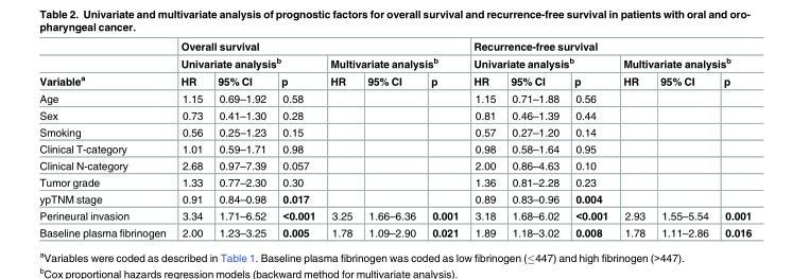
<table><thead><tr><td rowspan="3">Variable<sup>a</sup></td><td colspan="6">Overall survival</td><td colspan="6">Recurrence-free survival</td></tr><tr><td colspan="3">Univariate analysis<sup>b</sup></td><td colspan="3">Multivariate analysis<sup>b</sup></td><td colspan="3">Univariate analysis<sup>b</sup></td><td colspan="3">Multivariate analysis<sup>b</sup></td></tr><tr><td>HR</td><td>95% CI</td><td>p</td><td>HR</td><td>95% CI</td><td>p</td><td>HR</td><td>95% CI</td><td>p</td><td>HR</td><td>95% CI</td><td>p</td></tr></thead><tbody><tr><td>Age</td><td>1.15</td><td>0.69–1.92</td><td>0.58</td><td></td><td></td><td></td><td>1.15</td><td>0.71–1.88</td><td>0.56</td><td></td><td></td><td></td></tr><tr><td>Sex</td><td>0.73</td><td>0.41–1.30</td><td>0.28</td><td></td><td></td><td></td><td>0.81</td><td>0.46–1.39</td><td>0.44</td><td></td><td></td><td></td></tr><tr><td>Smoking</td><td>0.56</td><td>0.25–1.23</td><td>0.15</td><td></td><td></td><td></td><td>0.57</td><td>0.27–1.20</td><td>0.14</td><td></td><td></td><td></td></tr><tr><td>Clinical T-category</td><td>1.01</td><td>0.59–1.71</td><td>0.98</td><td></td><td></td><td></td><td>0.98</td><td>0.58–1.64</td><td>0.95</td><td></td><td></td><td></td></tr><tr><td>Clinical N-category</td><td>2.68</td><td>0.97–7.39</td><td>0.057</td><td></td><td></td><td></td><td>2.00</td><td>0.86–4.63</td><td>0.10</td><td></td><td></td><td></td></tr><tr><td>Tumor grade</td><td>1.33</td><td>0.77–2.30</td><td>0.30</td><td></td><td></td><td></td><td>1.36</td><td>0.81–2.28</td><td>0.23</td><td></td><td></td><td></td></tr><tr><td>ypTNM stage</td><td>0.91</td><td>0.84–0.98</td><td>0.017</td><td></td><td></td><td></td><td>0.89</td><td>0.83–0.96</td><td>0.004</td><td></td><td></td><td></td></tr><tr><td>Perineural invasion</td><td>3.34</td><td>1.71–6.52</td><td>&lt;0.001</td><td>3.25</td><td>1.66–6.36</td><td>0.001</td><td>3.18</td><td>1.68–6.02</td><td>&lt;0.001</td><td>2.93</td><td>1.55–5.54</td><td>0.001</td></tr><tr><td>Baseline plasma fibrinogen</td><td>2.00</td><td>1.23–3.25</td><td>0.005</td><td>1.78</td><td>1.09–2.90</td><td>0.021</td><td>1.89</td><td>1.18–3.02</td><td>0.008</td><td>1.78</td><td>1.11–2.86</td><td>0.016</td></tr></tbody></table>